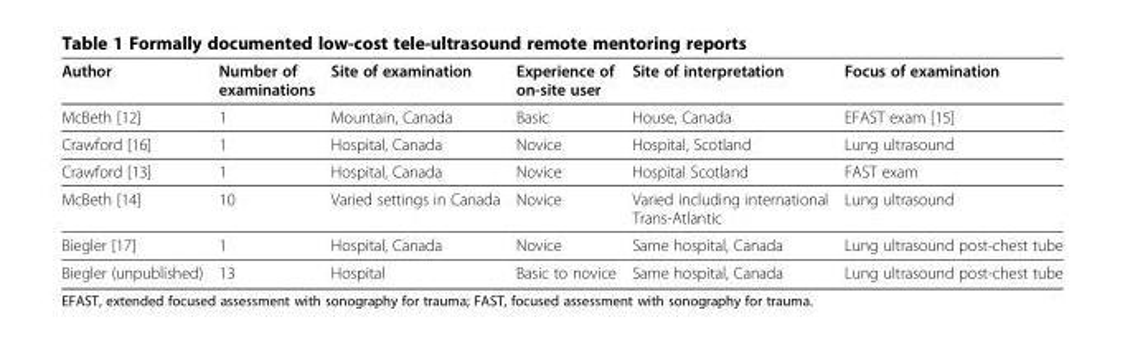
<table><thead><tr><td>Author</td><td>Number of examinations</td><td>Site of examination</td><td>Experience of on-site user</td><td>Site of interpretation</td><td>Focus of examination</td></tr></thead><tbody><tr><td>McBeth [12]</td><td>1</td><td>Mountain, Canada</td><td>Basic</td><td>House, Canada</td><td>EFAST exam [15]</td></tr><tr><td>Crawford [16]</td><td>1</td><td>Hospital, Canada</td><td>Novice</td><td>Hospital, Scotland</td><td>Lung ultrasound</td></tr><tr><td>Crawford [13]</td><td>1</td><td>Hospital, Canada</td><td>Novice</td><td>Hospital Scotland</td><td>FAST exam</td></tr><tr><td>McBeth [14]</td><td>10</td><td>Varied settings in Canada</td><td>Novice</td><td>Varied including international Trans-Atlantic</td><td>Lung ultrasound</td></tr><tr><td>Biegler [17]</td><td>1</td><td>Hospital, Canada</td><td>Novice</td><td>Same hospital, Canada</td><td>Lung ultrasound post-chest tube</td></tr><tr><td>Biegler (unpublished)</td><td>13</td><td>Hospital</td><td>Basic to novice</td><td>Same hospital, Canada</td><td>Lung ultrasound post-chest tube</td></tr></tbody></table>